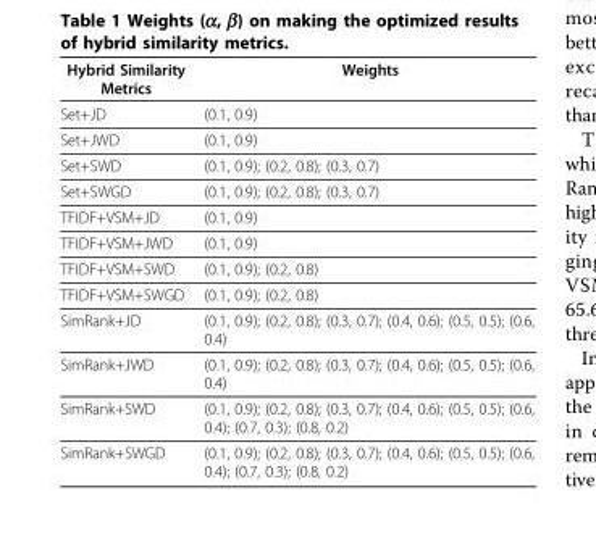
<table><thead><tr><td>Hybrid Similarity Metrics</td><td>Weights</td></tr></thead><tbody><tr><td>Set+JD</td><td>(0.1, 0.9)</td></tr><tr><td>Set+JWD</td><td>(0.1, 0.9)</td></tr><tr><td>Set+SWD</td><td>(0.1, 0.9); (0.2, 0.8); (0.3, 0.7)</td></tr><tr><td>Set+SWGD</td><td>(0.1, 0.9); (0.2, 0.8); (0.3, 0.7)</td></tr><tr><td>TFIDF+VSM+JD</td><td>(0.1, 0.9)</td></tr><tr><td>TFIDF+VSM+JWD</td><td>(0.1, 0.9)</td></tr><tr><td>TFIDF+VSM+SWD</td><td>(0.1, 0.9); (0.2, 0.8)</td></tr><tr><td>TFIDF+VSM+SWGD</td><td>(0.1, 0.9); (0.2, 0.8)</td></tr><tr><td>SimRank+JD</td><td>(0.1, 0.9); (0.2, 0.8); (0.3, 0.7); (0.4, 0.6); (0.5, 0.5); (0.6, 0.4)</td></tr><tr><td>SimRank+JWD</td><td>(0.1, 0.9); (0.2, 0.8); (0.3, 0.7); (0.4, 0.6); (0.5, 0.5); (0.6, 0.4)</td></tr><tr><td>SimRank+SWD</td><td>(0.1, 0.9); (0.2, 0.8); (0.3, 0.7); (0.4, 0.6); (0.5, 0.5); (0.6, 0.4); (0.7, 0.3); (0.8, 0.2)</td></tr><tr><td>SimRank+SWGD</td><td>(0.1, 0.9); (0.2, 0.8); (0.3, 0.7); (0.4, 0.6); (0.5, 0.5); (0.6, 0.4); (0.7, 0.3); (0.8, 0.2)</td></tr></tbody></table>